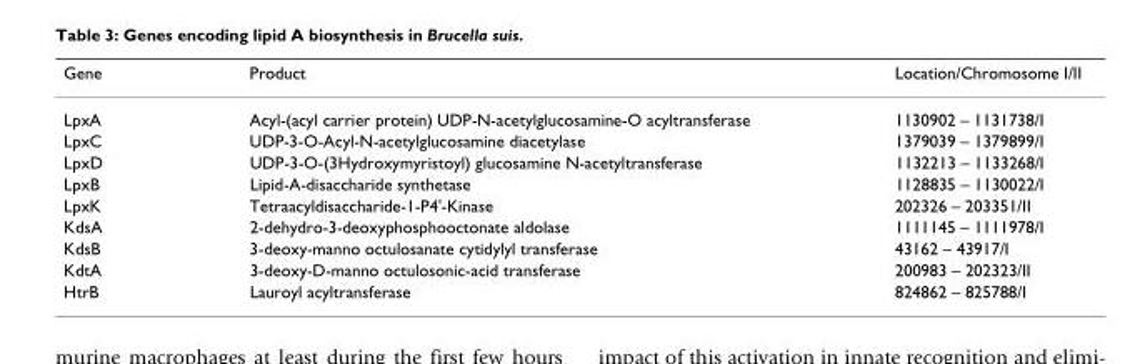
<table><thead><tr><td>Gene</td><td>Product</td><td>Location/Chromosome I/II</td></tr></thead><tbody><tr><td>LpxA</td><td>Acyl-(acyl carrier protein) UDP-N-acetylglucosamine-O acyltransferase</td><td>1130902 – 1131738/I</td></tr><tr><td>LpxC</td><td>UDP-3-O-Acyl-N-acetylglucosamine diacetylase</td><td>1379039 – 1379899/I</td></tr><tr><td>LpxD</td><td>UDP-3-O-(3Hydroxymyristoyl) glucosamine N-acetyltransferase</td><td>1132213 – 1133268/I</td></tr><tr><td>LpxB</td><td>Lipid-A-disaccharide synthetase</td><td>1128835 – 1130022/I</td></tr><tr><td>LpxK</td><td>Tetraacyldisaccharide-1-P4&#x27;-Kinase</td><td>202326 – 203351/II</td></tr><tr><td>KdsA</td><td>2-dehydro-3-deoxyphosphooctonate aldolase</td><td>1111145 – 1111978/I</td></tr><tr><td>KdsB</td><td>3-deoxy-manno octulosanate cytidylyl transferase</td><td>43162 – 43917/I</td></tr><tr><td>KdtA</td><td>3-deoxy-D-manno octulosonic-acid transferase</td><td>200983 – 202323/II</td></tr><tr><td>HtrB</td><td>Lauroyl acyltransferase</td><td>824862 – 825788/I</td></tr></tbody></table>